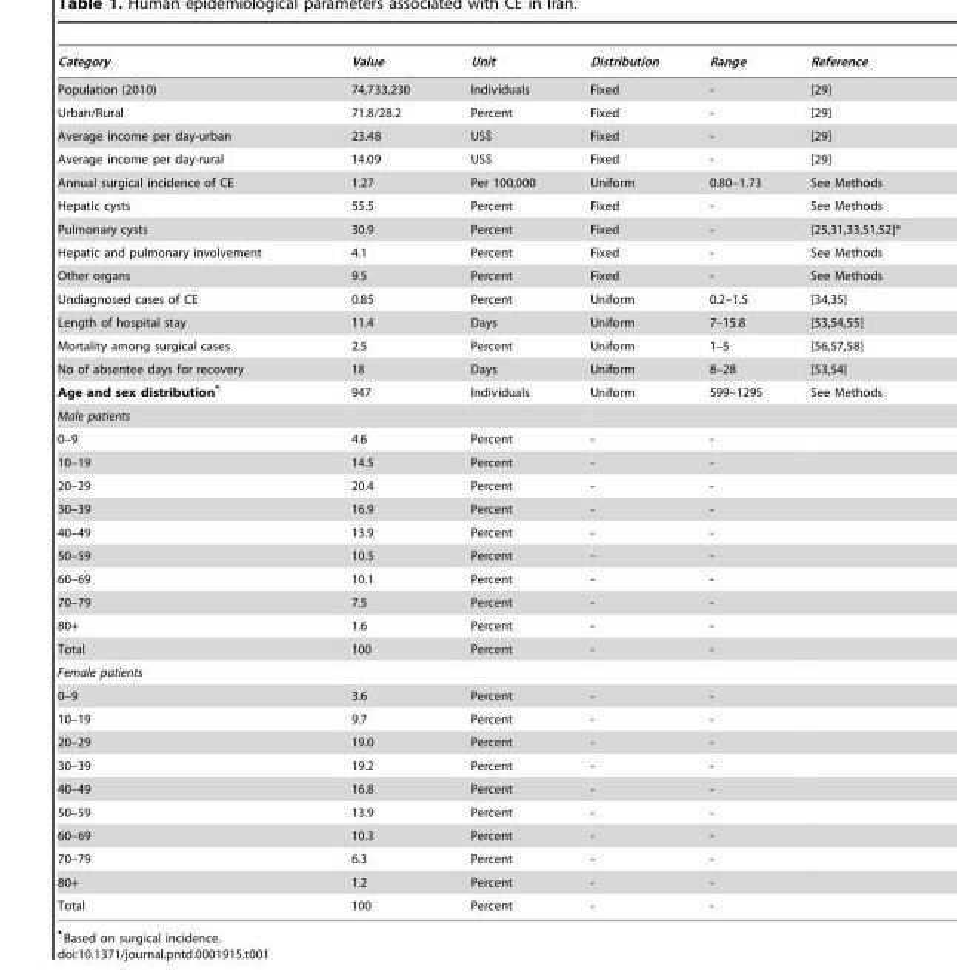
<table><thead><tr><td>Category</td><td>Value</td><td>Unit</td><td>Distribution</td><td>Range</td><td>Reference</td></tr></thead><tbody><tr><td>Population (2010)</td><td>74,733,230</td><td>Individuals</td><td>Fixed</td><td>-</td><td>[29]</td></tr><tr><td>Urban/Rural</td><td>71.8/28.2</td><td>Percent</td><td>Fixed</td><td>-</td><td>[29]</td></tr><tr><td>Average income per day-urban</td><td>23.48</td><td>US$</td><td>Fixed</td><td>-</td><td>[29]</td></tr><tr><td>Average income per day-rural</td><td>14.09</td><td>US$</td><td>Fixed</td><td>-</td><td>[29]</td></tr><tr><td>Annual surgical incidence of CE</td><td>1.27</td><td>Per 100,000</td><td>Uniform</td><td>0.80–1.73</td><td>See Methods</td></tr><tr><td>Hepatic cysts</td><td>55.5</td><td>Percent</td><td>Fixed</td><td>-</td><td>See Methods</td></tr><tr><td>Pulmonary cysts</td><td>30.9</td><td>Percent</td><td>Fixed</td><td>-</td><td>[25,31,33,51,52]*</td></tr><tr><td>Hepatic and pulmonary involvement</td><td>4.1</td><td>Percent</td><td>Fixed</td><td>-</td><td>See Methods</td></tr><tr><td>Other organs</td><td>9.5</td><td>Percent</td><td>Fixed</td><td>-</td><td>See Methods</td></tr><tr><td>Undiagnosed cases of CE</td><td>0.85</td><td>Percent</td><td>Uniform</td><td>0.2–1.5</td><td>[34,35]</td></tr><tr><td>Length of hospital stay</td><td>11.4</td><td>Days</td><td>Uniform</td><td>7–15.8</td><td>[53,54,55]</td></tr><tr><td>Mortality among surgical cases</td><td>2.5</td><td>Percent</td><td>Uniform</td><td>1–5</td><td>[56,57,58]</td></tr><tr><td>No of absentee days for recovery</td><td>18</td><td>Days</td><td>Uniform</td><td>8–28</td><td>[53,54]</td></tr><tr><td>Age and sex distribution¶</td><td>947</td><td>Individuals</td><td>Uniform</td><td>599–1295</td><td>See Methods</td></tr><tr><td colspan="6">Male patients</td></tr><tr><td>0–9</td><td>4.6</td><td>Percent</td><td>-</td><td>-</td><td></td></tr><tr><td>10–19</td><td>14.5</td><td>Percent</td><td>-</td><td>-</td><td></td></tr><tr><td>20–29</td><td>20.4</td><td>Percent</td><td>-</td><td>-</td><td></td></tr><tr><td>30–39</td><td>16.9</td><td>Percent</td><td>-</td><td>-</td><td></td></tr><tr><td>40–49</td><td>13.9</td><td>Percent</td><td>-</td><td>-</td><td></td></tr><tr><td>50–59</td><td>10.5</td><td>Percent</td><td>-</td><td>-</td><td></td></tr><tr><td>60–69</td><td>10.1</td><td>Percent</td><td>-</td><td>-</td><td></td></tr><tr><td>70–79</td><td>7.5</td><td>Percent</td><td>-</td><td>-</td><td></td></tr><tr><td>80+</td><td>1.6</td><td>Percent</td><td>-</td><td>-</td><td></td></tr><tr><td>Total</td><td>100</td><td>Percent</td><td>-</td><td>-</td><td></td></tr><tr><td colspan="6">Female patients</td></tr><tr><td>0–9</td><td>3.6</td><td>Percent</td><td>-</td><td>-</td><td></td></tr><tr><td>10–19</td><td>9.7</td><td>Percent</td><td>-</td><td>-</td><td></td></tr><tr><td>20–29</td><td>19.0</td><td>Percent</td><td>-</td><td>-</td><td></td></tr><tr><td>30–39</td><td>19.2</td><td>Percent</td><td>-</td><td>-</td><td></td></tr><tr><td>40–49</td><td>16.8</td><td>Percent</td><td>-</td><td>-</td><td></td></tr><tr><td>50–59</td><td>13.9</td><td>Percent</td><td>-</td><td>-</td><td></td></tr><tr><td>60–69</td><td>10.3</td><td>Percent</td><td>-</td><td>-</td><td></td></tr><tr><td>70–79</td><td>6.3</td><td>Percent</td><td>-</td><td>-</td><td></td></tr><tr><td>80+</td><td>1.2</td><td>Percent</td><td>-</td><td>-</td><td></td></tr><tr><td>Total</td><td>100</td><td>Percent</td><td>-</td><td>-</td><td></td></tr></tbody></table>